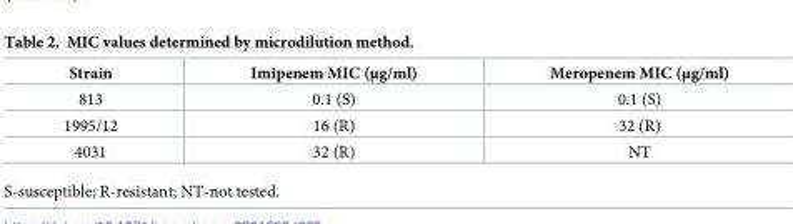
<table><thead><tr><td>Strain</td><td>Imipenem MIC (μg/ml)</td><td>Meropenem MIC (μg/ml)</td></tr></thead><tbody><tr><td>813</td><td>0.1 (S)</td><td>0.1 (S)</td></tr><tr><td>1995/12</td><td>16 (R)</td><td>32 (R)</td></tr><tr><td>4031</td><td>32 (R)</td><td>NT</td></tr></tbody></table>